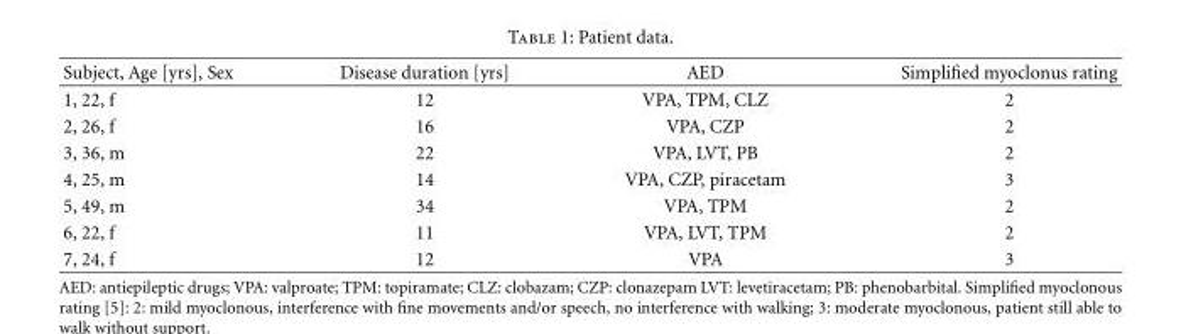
<table><thead><tr><td>Subject, Age [yrs], Sex</td><td>Disease duration [yrs]</td><td>AED</td><td>Simplified myoclonus rating</td></tr></thead><tbody><tr><td>1, 22, f</td><td>12</td><td>VPA, TPM, CLZ</td><td>2</td></tr><tr><td>2, 26, f</td><td>16</td><td>VPA, CZP</td><td>2</td></tr><tr><td>3, 36, m</td><td>22</td><td>VPA, LVT, PB</td><td>2</td></tr><tr><td>4, 25, m</td><td>14</td><td>VPA, CZP, piracetam</td><td>3</td></tr><tr><td>5, 49, m</td><td>34</td><td>VPA, TPM</td><td>2</td></tr><tr><td>6, 22, f</td><td>11</td><td>VPA, LVT, TPM</td><td>2</td></tr><tr><td>7, 24, f</td><td>12</td><td>VPA</td><td>3</td></tr></tbody></table>